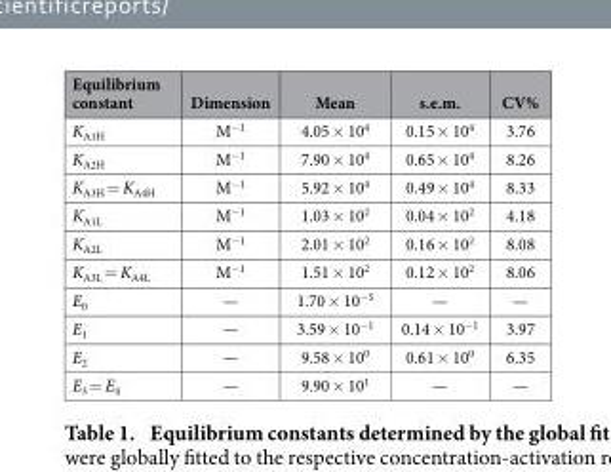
<table><thead><tr><td>Equilibrium constant</td><td>Dimension</td><td>Mean</td><td>s.e.m.</td><td>CV%</td></tr></thead><tbody><tr><td>K<sub>A1H</sub></td><td>M<sup>−1</sup></td><td>4.05 × 10<sup>4</sup></td><td>0.15 × 10<sup>4</sup></td><td>3.76</td></tr><tr><td>K<sub>A2H</sub></td><td>M<sup>−1</sup></td><td>7.90 × 10<sup>4</sup></td><td>0.65 × 10<sup>4</sup></td><td>8.26</td></tr><tr><td>K<sub>A3H</sub> = K<sub>A4H</sub></td><td>M<sup>−1</sup></td><td>5.92 × 10<sup>4</sup></td><td>0.49 × 10<sup>4</sup></td><td>8.33</td></tr><tr><td>K<sub>A1L</sub></td><td>M<sup>−1</sup></td><td>1.03 × 10<sup>2</sup></td><td>0.04 × 10<sup>2</sup></td><td>4.18</td></tr><tr><td>K<sub>A2L</sub></td><td>M<sup>−1</sup></td><td>2.01 × 10<sup>2</sup></td><td>0.16 × 10<sup>2</sup></td><td>8.08</td></tr><tr><td>K<sub>A3L</sub> = K<sub>A4L</sub></td><td>M<sup>−1</sup></td><td>1.51 × 10<sup>2</sup></td><td>0.12 × 10<sup>2</sup></td><td>8.06</td></tr><tr><td>E<sub>0</sub></td><td>—</td><td>1.70 × 10<sup>−5</sup></td><td>—</td><td>—</td></tr><tr><td>E<sub>1</sub></td><td>—</td><td>3.59 × 10<sup>−1</sup></td><td>0.14 × 10<sup>−1</sup></td><td>3.97</td></tr><tr><td>E<sub>2</sub></td><td>—</td><td>9.58 × 10<sup>0</sup></td><td>0.61 × 10<sup>0</sup></td><td>6.35</td></tr><tr><td>E<sub>3</sub> = E<sub>4</sub></td><td>—</td><td>9.90 × 10<sup>1</sup></td><td>—</td><td>—</td></tr></tbody></table>